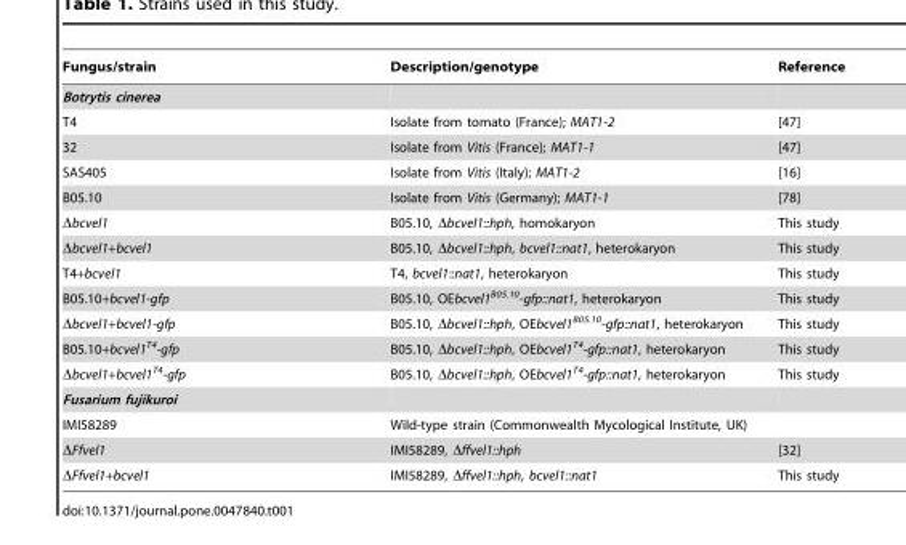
<table><thead><tr><td>Fungus/strain</td><td>Description/genotype</td><td>Reference</td></tr></thead><tbody><tr><td colspan="3">Botrytis cinerea</td></tr><tr><td>T4</td><td>Isolate from tomato (France); MAT1-2</td><td>[47]</td></tr><tr><td>32</td><td>Isolate from Vitis (France); MAT1-1</td><td>[47]</td></tr><tr><td>SAS405</td><td>Isolate from Vitis (Italy); MAT1-2</td><td>[16]</td></tr><tr><td>B05.10</td><td>Isolate from Vitis (Germany); MAT1-1</td><td>[78]</td></tr><tr><td>Δbcvel1</td><td>B05.10, Δbcvel1::hph, homokaryon</td><td>This study</td></tr><tr><td>Δbcvel1+bcvel1</td><td>B05.10, Δbcvel1::hph, bcvel1::nat1, heterokaryon</td><td>This study</td></tr><tr><td>T4+bcvel1</td><td>T4, bcvel1::nat1, heterokaryon</td><td>This study</td></tr><tr><td>B05.10+bcvel1-gfp</td><td>B05.10, OEbcvel1<sup>B05.10</sup>-gfp::nat1, heterokaryon</td><td>This study</td></tr><tr><td>Δbcvel1+bcvel1-gfp</td><td>B05.10, Δbcvel1::hph, OEbcvel1<sup>B05.10</sup>-gfp::nat1, heterokaryon</td><td>This study</td></tr><tr><td>B05.10+bcvel1<sup>T4</sup>-gfp</td><td>B05.10, Δbcvel1::hph, OEbcvel1<sup>T4</sup>-gfp::nat1, heterokaryon</td><td>This study</td></tr><tr><td>Δbcvel1+bcvel1<sup>T4</sup>-gfp</td><td>B05.10, Δbcvel1::hph, OEbcvel1<sup>T4</sup>-gfp::nat1, heterokaryon</td><td>This study</td></tr><tr><td colspan="3">Fusarium fujikuroi</td></tr><tr><td>IMI58289</td><td>Wild-type strain (Commonwealth Mycological Institute, UK)</td><td></td></tr><tr><td>ΔFfvel1</td><td>IMI58289, Δffvel1::hph</td><td>[32]</td></tr><tr><td>ΔFfvel1+bcvel1</td><td>IMI58289, Δffvel1::hph, bcvel1::nat1</td><td>This study</td></tr></tbody></table>